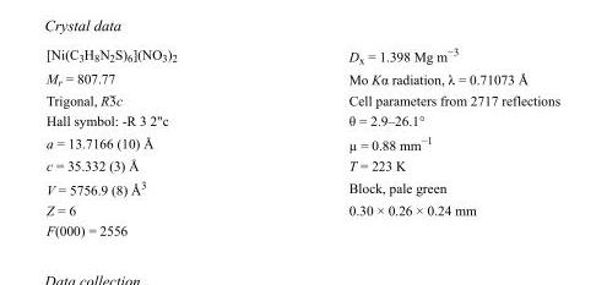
<table><tbody><tr><td>[Ni(C<sub>3</sub>H<sub>8</sub>N<sub>2</sub>S)<sub>6</sub>](NO<sub>3</sub>)<sub>2</sub></td><td>D<sub>x</sub> = 1.398 Mg m<sup>−3</sup></td></tr><tr><td>M<sub>r</sub> = 807.77</td><td>Mo Kα radiation, λ = 0.71073 Å</td></tr><tr><td>Trigonal, R3c</td><td>Cell parameters from 2717 reflections</td></tr><tr><td>Hall symbol: -R 3 2&quot;c</td><td>θ = 2.9–26.1°</td></tr><tr><td>a = 13.7166 (10) Å</td><td>µ = 0.88 mm<sup>−1</sup></td></tr><tr><td>c = 35.332 (3) Å</td><td>T = 223 K</td></tr><tr><td>V = 5756.9 (8) Å<sup>3</sup></td><td>Block, pale green</td></tr><tr><td>Z = 6</td><td>0.30 × 0.26 × 0.24 mm</td></tr><tr><td>F(000) = 2556</td><td></td></tr></tbody></table>